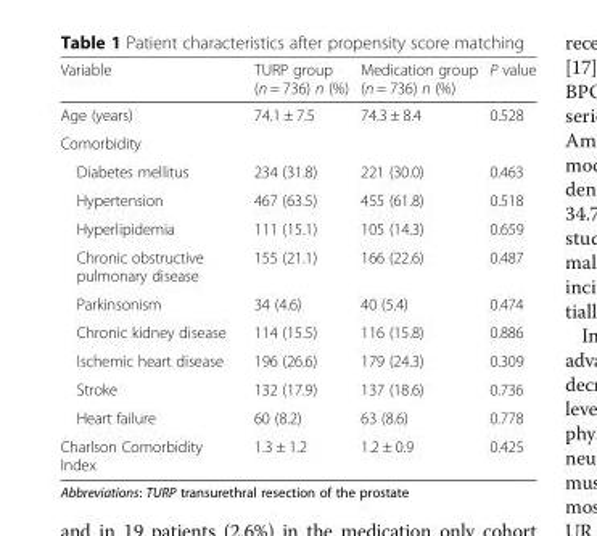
<table><thead><tr><td>Variable</td><td>TURP group (n = 736) n (%)</td><td>Medication group (n = 736) n (%)</td><td>P value</td></tr></thead><tbody><tr><td>Age (years)</td><td>74.1 ± 7.5</td><td>74.3 ± 8.4</td><td>0.528</td></tr><tr><td colspan="4">Comorbidity</td></tr><tr><td>Diabetes mellitus</td><td>234 (31.8)</td><td>221 (30.0)</td><td>0.463</td></tr><tr><td>Hypertension</td><td>467 (63.5)</td><td>455 (61.8)</td><td>0.518</td></tr><tr><td>Hyperlipidemia</td><td>111 (15.1)</td><td>105 (14.3)</td><td>0.659</td></tr><tr><td>Chronic obstructive pulmonary disease</td><td>155 (21.1)</td><td>166 (22.6)</td><td>0.487</td></tr><tr><td>Parkinsonism</td><td>34 (4.6)</td><td>40 (5.4)</td><td>0.474</td></tr><tr><td>Chronic kidney disease</td><td>114 (15.5)</td><td>116 (15.8)</td><td>0.886</td></tr><tr><td>Ischemic heart disease</td><td>196 (26.6)</td><td>179 (24.3)</td><td>0.309</td></tr><tr><td>Stroke</td><td>132 (17.9)</td><td>137 (18.6)</td><td>0.736</td></tr><tr><td>Heart failure</td><td>60 (8.2)</td><td>63 (8.6)</td><td>0.778</td></tr><tr><td>Charlson Comorbidity Index</td><td>1.3 ± 1.2</td><td>1.2 ± 0.9</td><td>0.425</td></tr></tbody></table>